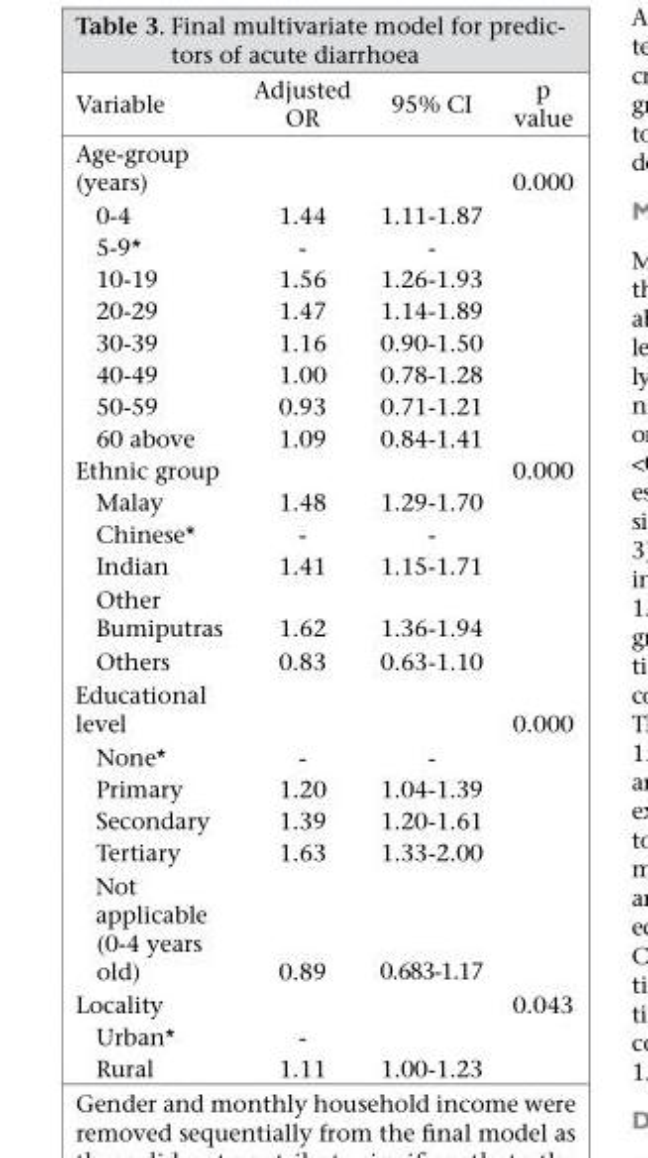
<table><thead><tr><td>Variable</td><td>Adjusted OR</td><td>95% CI</td><td>p value</td></tr></thead><tbody><tr><td>Age-group (years)</td><td></td><td></td><td>0.000</td></tr><tr><td>0-4</td><td>1.44</td><td>1.11-1.87</td><td></td></tr><tr><td>5-9*</td><td>-</td><td>-</td><td></td></tr><tr><td>10-19</td><td>1.56</td><td>1.26-1.93</td><td></td></tr><tr><td>20-29</td><td>1.47</td><td>1.14-1.89</td><td></td></tr><tr><td>30-39</td><td>1.16</td><td>0.90-1.50</td><td></td></tr><tr><td>40-49</td><td>1.00</td><td>0.78-1.28</td><td></td></tr><tr><td>50-59</td><td>0.93</td><td>0.71-1.21</td><td></td></tr><tr><td>60 above</td><td>1.09</td><td>0.84-1.41</td><td></td></tr><tr><td>Ethnic group</td><td></td><td></td><td>0.000</td></tr><tr><td>Malay</td><td>1.48</td><td>1.29-1.70</td><td></td></tr><tr><td>Chinese*</td><td>-</td><td>-</td><td></td></tr><tr><td>Indian</td><td>1.41</td><td>1.15-1.71</td><td></td></tr><tr><td>Other Bumiputras</td><td>1.62</td><td>1.36-1.94</td><td></td></tr><tr><td>Others</td><td>0.83</td><td>0.63-1.10</td><td></td></tr><tr><td>Educational level</td><td></td><td></td><td>0.000</td></tr><tr><td>None*</td><td>-</td><td>-</td><td></td></tr><tr><td>Primary</td><td>1.20</td><td>1.04-1.39</td><td></td></tr><tr><td>Secondary</td><td>1.39</td><td>1.20-1.61</td><td></td></tr><tr><td>Tertiary</td><td>1.63</td><td>1.33-2.00</td><td></td></tr><tr><td>Not applicable (0-4 years old)</td><td>0.89</td><td>0.683-1.17</td><td></td></tr><tr><td>Locality</td><td></td><td></td><td>0.043</td></tr><tr><td>Urban*</td><td>-</td><td></td><td></td></tr><tr><td>Rural</td><td>1.11</td><td>1.00-1.23</td><td></td></tr></tbody></table>